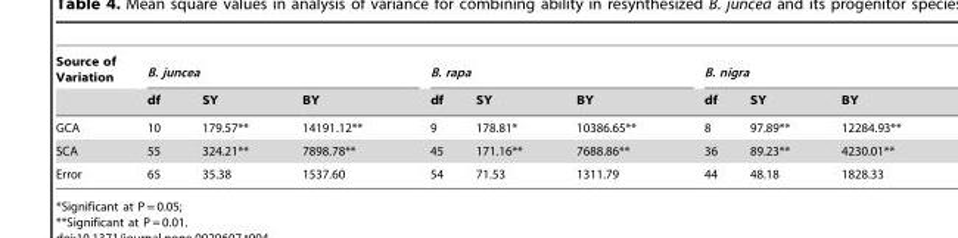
<table><thead><tr><td rowspan="2">Source of Variation</td><td colspan="3">B. juncea</td><td colspan="3">B. rapa</td><td colspan="3">B. nigra</td></tr><tr><td>df</td><td>SY</td><td>BY</td><td>df</td><td>SY</td><td>BY</td><td>df</td><td>SY</td><td>BY</td></tr></thead><tbody><tr><td>GCA</td><td>10</td><td>179.57**</td><td>14191.12**</td><td>9</td><td>178.81*</td><td>10386.65**</td><td>8</td><td>97.89**</td><td>12284.93**</td></tr><tr><td>SCA</td><td>55</td><td>324.21**</td><td>7898.78**</td><td>45</td><td>171.16**</td><td>7688.86**</td><td>36</td><td>89.23**</td><td>4230.01**</td></tr><tr><td>Error</td><td>65</td><td>35.38</td><td>1537.60</td><td>54</td><td>71.53</td><td>1311.79</td><td>44</td><td>48.18</td><td>1828.33</td></tr></tbody></table>